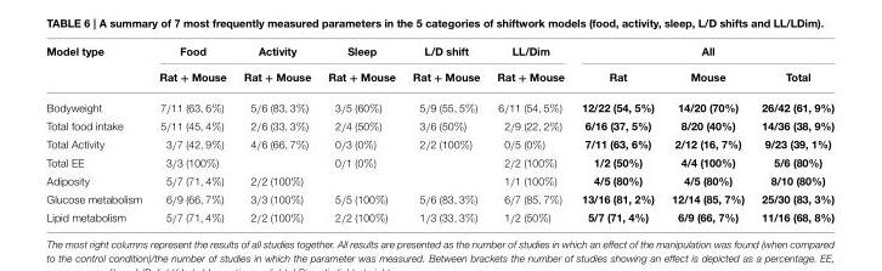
<table><thead><tr><td rowspan="2">Model type</td><td rowspan="2">Food Rat + Mouse</td><td rowspan="2">Activity Rat + Mouse</td><td rowspan="2">Sleep Rat + Mouse</td><td rowspan="2">L/D shift Rat + Mouse</td><td rowspan="2">LL/Dim Rat + Mouse</td><td colspan="3">All</td></tr><tr><td>Rat</td><td>Mouse</td><td>Total</td></tr></thead><tbody><tr><td>Bodyweight</td><td>7/11 (63, 6%)</td><td>5/6 (83, 3%)</td><td>3/5 (60%)</td><td>5/9 (55, 5%)</td><td>6/11 (54, 5%)</td><td>12/22 (54, 5%)</td><td>14/20 (70%)</td><td>26/42 (61, 9%)</td></tr><tr><td>Total food intake</td><td>5/11 (45, 4%)</td><td>2/6 (33, 3%)</td><td>2/4 (50%)</td><td>3/6 (50%)</td><td>2/9 (22, 2%)</td><td>6/16 (37, 5%)</td><td>8/20 (40%)</td><td>14/36 (38, 9%)</td></tr><tr><td>Total Activity</td><td>3/7 (42, 9%)</td><td>4/6 (66, 7%)</td><td>0/3 (0%)</td><td>2/2 (100%)</td><td>0/5 (0%)</td><td>7/11 (63, 6%)</td><td>2/12 (16, 7%)</td><td>9/23 (39, 1%)</td></tr><tr><td>Total EE</td><td>3/3 (100%)</td><td></td><td>0/1 (0%)</td><td></td><td>2/2 (100%)</td><td>1/2 (50%)</td><td>4/4 (100%)</td><td>5/6 (80%)</td></tr><tr><td>Adiposity</td><td>5/7 (71, 4%)</td><td>2/2 (100%)</td><td></td><td></td><td>1/1 (100%)</td><td>4/5 (80%)</td><td>4/5 (80%)</td><td>8/10 (80%)</td></tr><tr><td>Glucose metabolism</td><td>6/9 (66, 7%)</td><td>3/3 (100%)</td><td>5/5 (100%)</td><td>5/6 (83, 3%)</td><td>6/7 (85, 7%)</td><td>13/16 (81, 2%)</td><td>12/14 (85, 7%)</td><td>25/30 (83, 3%)</td></tr><tr><td>Lipid metabolism</td><td>5/7 (71, 4%)</td><td>2/2 (100%)</td><td>2/2 (100%)</td><td>1/3 (33, 3%)</td><td>1/2 (50%)</td><td>5/7 (71, 4%)</td><td>6/9 (66, 7%)</td><td>11/16 (68, 8%)</td></tr></tbody></table>